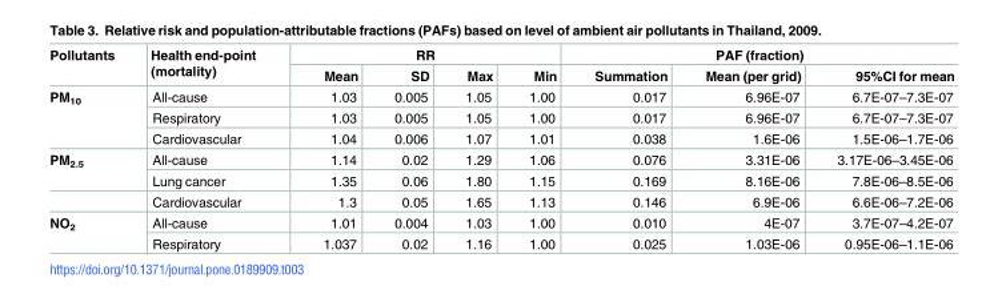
<table><thead><tr><td rowspan="2">Pollutants</td><td rowspan="2">Health end-point (mortality)</td><td colspan="4">RR</td><td colspan="3">PAF (fraction)</td></tr><tr><td>Mean</td><td>SD</td><td>Max</td><td>Min</td><td>Summation</td><td>Mean (per grid)</td><td>95%CI for mean</td></tr></thead><tbody><tr><td rowspan="3">PM<sub>10</sub></td><td>All-cause</td><td>1.03</td><td>0.005</td><td>1.05</td><td>1.00</td><td>0.017</td><td>6.96E-07</td><td>6.7E-07–7.3E-07</td></tr><tr><td>Respiratory</td><td>1.03</td><td>0.005</td><td>1.05</td><td>1.00</td><td>0.017</td><td>6.96E-07</td><td>6.7E-07–7.3E-07</td></tr><tr><td>Cardiovascular</td><td>1.04</td><td>0.006</td><td>1.07</td><td>1.01</td><td>0.038</td><td>1.6E-06</td><td>1.5E-06–1.7E-06</td></tr><tr><td rowspan="3">PM<sub>2.5</sub></td><td>All-cause</td><td>1.14</td><td>0.02</td><td>1.29</td><td>1.06</td><td>0.076</td><td>3.31E-06</td><td>3.17E-06–3.45E-06</td></tr><tr><td>Lung cancer</td><td>1.35</td><td>0.06</td><td>1.80</td><td>1.15</td><td>0.169</td><td>8.16E-06</td><td>7.8E-06–8.5E-06</td></tr><tr><td>Cardiovascular</td><td>1.3</td><td>0.05</td><td>1.65</td><td>1.13</td><td>0.146</td><td>6.9E-06</td><td>6.6E-06–7.2E-06</td></tr><tr><td rowspan="2">NO<sub>2</sub></td><td>All-cause</td><td>1.01</td><td>0.004</td><td>1.03</td><td>1.00</td><td>0.010</td><td>4E-07</td><td>3.7E-07–4.2E-07</td></tr><tr><td>Respiratory</td><td>1.037</td><td>0.02</td><td>1.16</td><td>1.00</td><td>0.025</td><td>1.03E-06</td><td>0.95E-06–1.1E-06</td></tr></tbody></table>